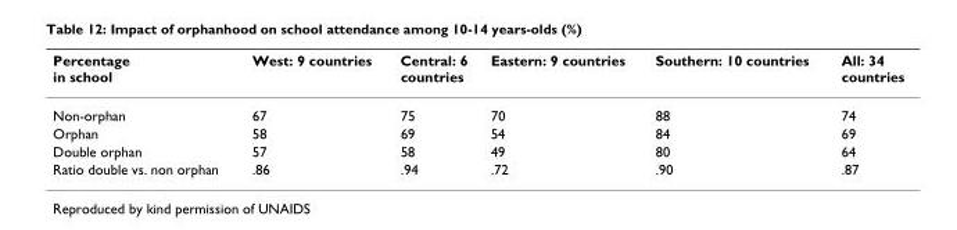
<table><thead><tr><td>Percentage in school</td><td>West: 9 countries</td><td>Central: 6 countries</td><td>Eastern: 9 countries</td><td>Southern: 10 countries</td><td>All: 34 countries</td></tr></thead><tbody><tr><td>Non-orphan</td><td>67</td><td>75</td><td>70</td><td>88</td><td>74</td></tr><tr><td>Orphan</td><td>58</td><td>69</td><td>54</td><td>84</td><td>69</td></tr><tr><td>Double orphan</td><td>57</td><td>58</td><td>49</td><td>80</td><td>64</td></tr><tr><td>Ratio double vs. non orphan</td><td>.86</td><td>.94</td><td>.72</td><td>.90</td><td>.87</td></tr></tbody></table>